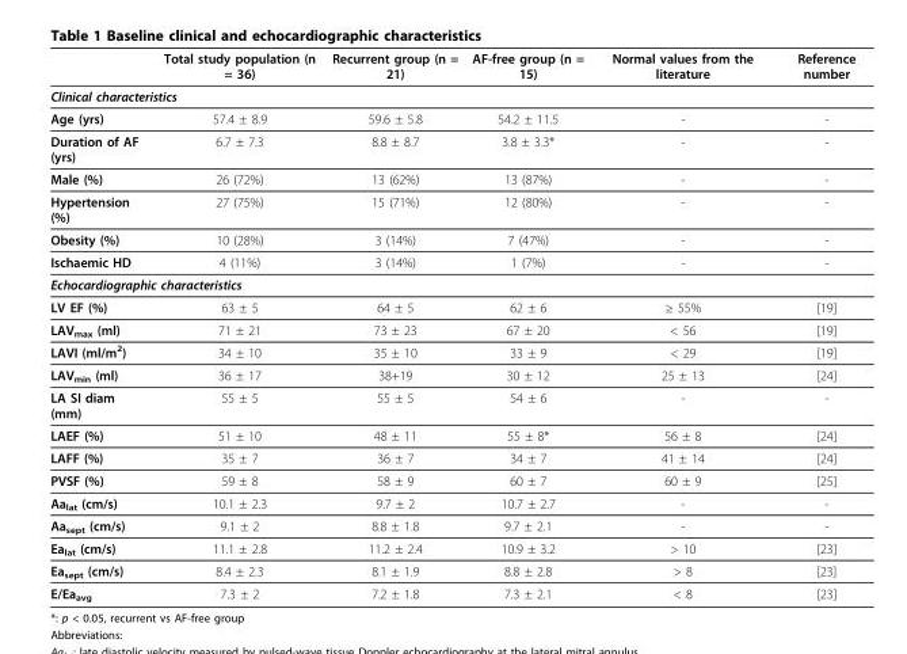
<table><thead><tr><td></td><td>Total study population (n = 36)</td><td>Recurrent group (n = 21)</td><td>AF-free group (n = 15)</td><td>Normal values from the literature</td><td>Reference number</td></tr></thead><tbody><tr><td colspan="6">Clinical characteristics</td></tr><tr><td>Age (yrs)</td><td>57.4 ± 8.9</td><td>59.6 ± 5.8</td><td>54.2 ± 11.5</td><td>-</td><td>-</td></tr><tr><td>Duration of AF (yrs)</td><td>6.7 ± 7.3</td><td>8.8 ± 8.7</td><td>3.8 ± 3.3*</td><td>-</td><td>-</td></tr><tr><td>Male (%)</td><td>26 (72%)</td><td>13 (62%)</td><td>13 (87%)</td><td>-</td><td>-</td></tr><tr><td>Hypertension (%)</td><td>27 (75%)</td><td>15 (71%)</td><td>12 (80%)</td><td>-</td><td>-</td></tr><tr><td>Obesity (%)</td><td>10 (28%)</td><td>3 (14%)</td><td>7 (47%)</td><td>-</td><td>-</td></tr><tr><td>Ischaemic HD</td><td>4 (11%)</td><td>3 (14%)</td><td>1 (7%)</td><td>-</td><td>-</td></tr><tr><td colspan="6">Echocardiographic characteristics</td></tr><tr><td>LV EF (%)</td><td>63 ± 5</td><td>64 ± 5</td><td>62 ± 6</td><td>≥ 55%</td><td>[19]</td></tr><tr><td>LAV<sub>max</sub> (ml)</td><td>71 ± 21</td><td>73 ± 23</td><td>67 ± 20</td><td>&lt; 56</td><td>[19]</td></tr><tr><td>LAVI (ml/m<sup>2</sup>)</td><td>34 ± 10</td><td>35 ± 10</td><td>33 ± 9</td><td>&lt; 29</td><td>[19]</td></tr><tr><td>LAV<sub>min</sub> (ml)</td><td>36 ± 17</td><td>38+19</td><td>30 ± 12</td><td>25 ± 13</td><td>[24]</td></tr><tr><td>LA SI diam (mm)</td><td>55 ± 5</td><td>55 ± 5</td><td>54 ± 6</td><td>-</td><td>-</td></tr><tr><td>LAEF (%)</td><td>51 ± 10</td><td>48 ± 11</td><td>55 ± 8*</td><td>56 ± 8</td><td>[24]</td></tr><tr><td>LAFF (%)</td><td>35 ± 7</td><td>36 ± 7</td><td>34 ± 7</td><td>41 ± 14</td><td>[24]</td></tr><tr><td>PVSF (%)</td><td>59 ± 8</td><td>58 ± 9</td><td>60 ± 7</td><td>60 ± 9</td><td>[25]</td></tr><tr><td>Aa<sub>lat</sub> (cm/s)</td><td>10.1 ± 2.3</td><td>9.7 ± 2</td><td>10.7 ± 2.7</td><td>-</td><td>-</td></tr><tr><td>Aa<sub>sept</sub> (cm/s)</td><td>9.1 ± 2</td><td>8.8 ± 1.8</td><td>9.7 ± 2.1</td><td>-</td><td>-</td></tr><tr><td>Ea<sub>lat</sub> (cm/s)</td><td>11.1 ± 2.8</td><td>11.2 ± 2.4</td><td>10.9 ± 3.2</td><td>&gt; 10</td><td>[23]</td></tr><tr><td>Ea<sub>sept</sub> (cm/s)</td><td>8.4 ± 2.3</td><td>8.1 ± 1.9</td><td>8.8 ± 2.8</td><td>&gt; 8</td><td>[23]</td></tr><tr><td>E/Ea<sub>avg</sub></td><td>7.3 ± 2</td><td>7.2 ± 1.8</td><td>7.3 ± 2.1</td><td>&lt; 8</td><td>[23]</td></tr></tbody></table>